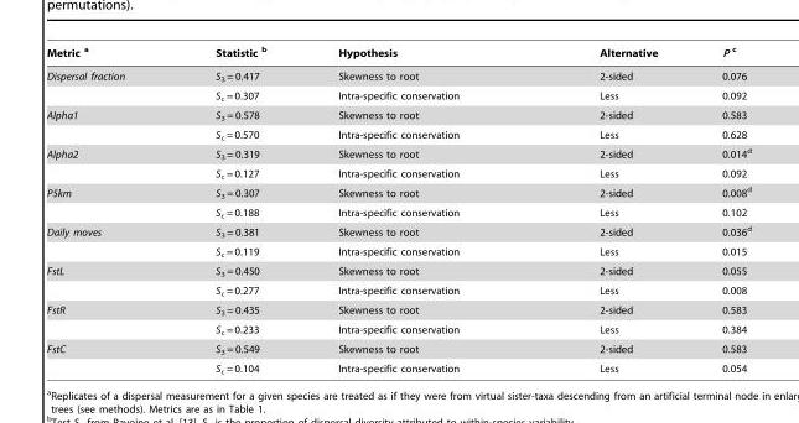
<table><thead><tr><td>Metric a</td><td>Statistic b</td><td>Hypothesis</td><td>Alternative</td><td>P c</td></tr></thead><tbody><tr><td rowspan="2">Dispersal fraction</td><td>S<sub>3</sub> = 0.417</td><td>Skewness to root</td><td>2-sided</td><td>0.076</td></tr><tr><td>S<sub>c</sub> = 0.307</td><td>Intra-specific conservation</td><td>Less</td><td>0.092</td></tr><tr><td rowspan="2">Alpha1</td><td>S<sub>3</sub> = 0.578</td><td>Skewness to root</td><td>2-sided</td><td>0.583</td></tr><tr><td>S<sub>c</sub> = 0.570</td><td>Intra-specific conservation</td><td>Less</td><td>0.628</td></tr><tr><td rowspan="2">Alpha2</td><td>S<sub>3</sub> = 0.319</td><td>Skewness to root</td><td>2-sided</td><td>0.014<sup>d</sup></td></tr><tr><td>S<sub>c</sub> = 0.127</td><td>Intra-specific conservation</td><td>Less</td><td>0.092</td></tr><tr><td rowspan="2">P5km</td><td>S<sub>3</sub> = 0.307</td><td>Skewness to root</td><td>2-sided</td><td>0.008<sup>d</sup></td></tr><tr><td>S<sub>c</sub> = 0.188</td><td>Intra-specific conservation</td><td>Less</td><td>0.102</td></tr><tr><td rowspan="2">Daily moves</td><td>S<sub>3</sub> = 0.381</td><td>Skewness to root</td><td>2-sided</td><td>0.036<sup>d</sup></td></tr><tr><td>S<sub>c</sub> = 0.119</td><td>Intra-specific conservation</td><td>Less</td><td>0.015</td></tr><tr><td rowspan="2">FstL</td><td>S<sub>3</sub> = 0.450</td><td>Skewness to root</td><td>2-sided</td><td>0.055</td></tr><tr><td>S<sub>c</sub> = 0.277</td><td>Intra-specific conservation</td><td>Less</td><td>0.008</td></tr><tr><td rowspan="2">FstR</td><td>S<sub>3</sub> = 0.435</td><td>Skewness to root</td><td>2-sided</td><td>0.583</td></tr><tr><td>S<sub>c</sub> = 0.233</td><td>Intra-specific conservation</td><td>Less</td><td>0.384</td></tr><tr><td rowspan="2">FstC</td><td>S<sub>3</sub> = 0.549</td><td>Skewness to root</td><td>2-sided</td><td>0.583</td></tr><tr><td>S<sub>c</sub> = 0.104</td><td>Intra-specific conservation</td><td>Less</td><td>0.054</td></tr></tbody></table>